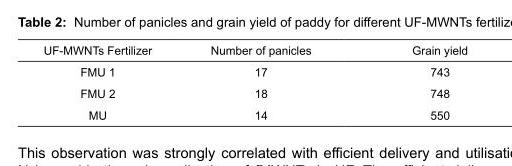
<table><thead><tr><td>UF-MWNTs Fertilizer</td><td>Number of panicles</td><td>Grain yield</td></tr></thead><tbody><tr><td>FMU 1</td><td>17</td><td>743</td></tr><tr><td>FMU 2</td><td>18</td><td>748</td></tr><tr><td>MU</td><td>14</td><td>550</td></tr></tbody></table>